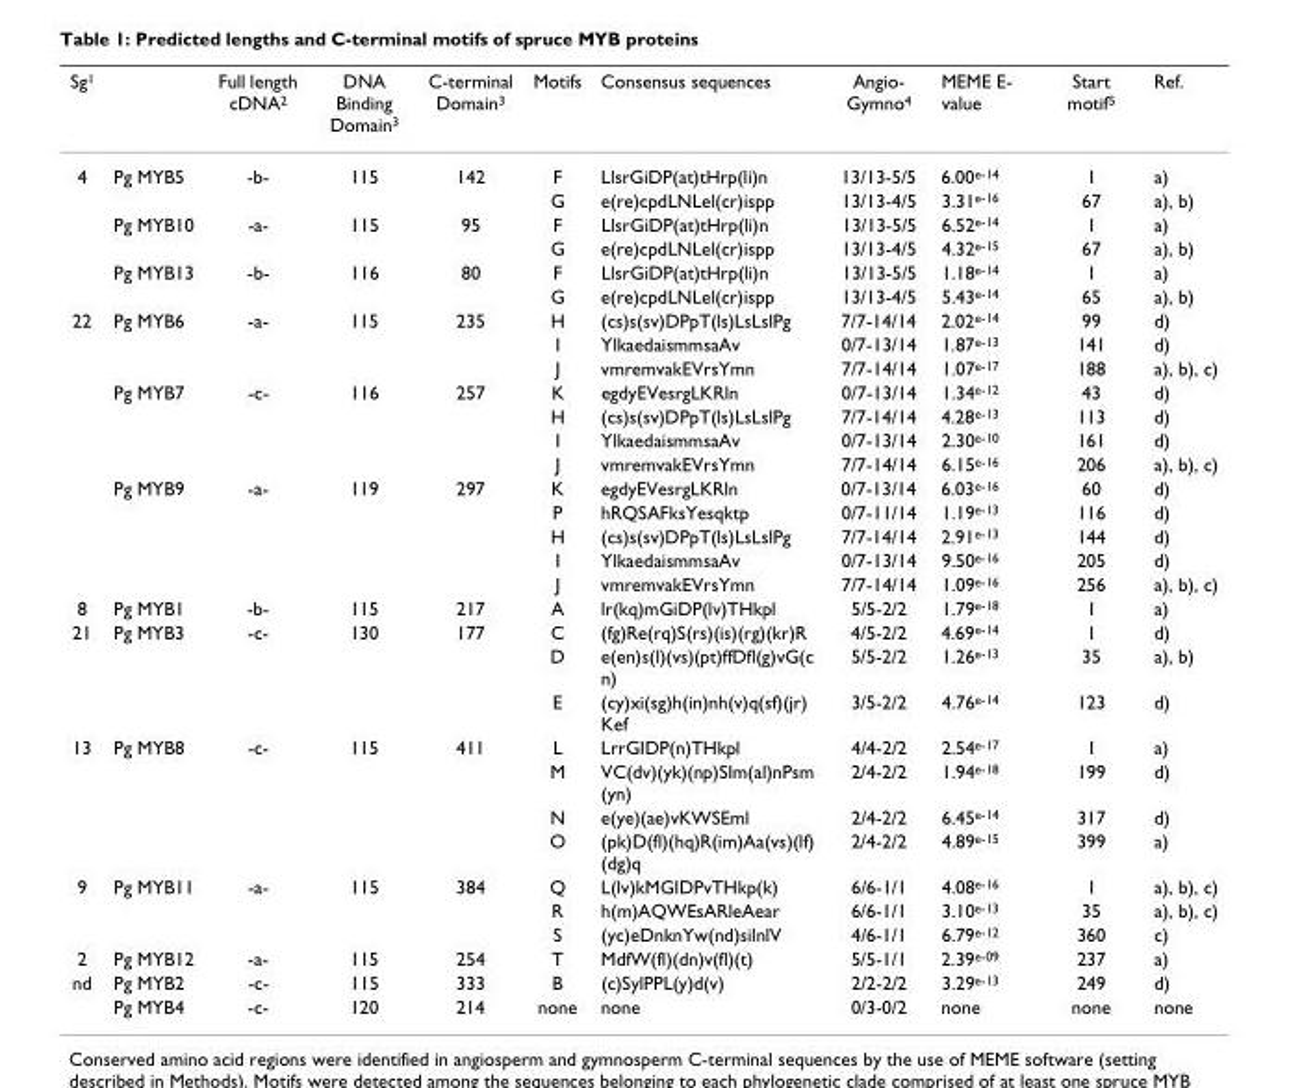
<table><thead><tr><td>Sg1</td><td></td><td>Full length cDNA2</td><td>DNA Binding Domain3</td><td>C-terminal Domain3</td><td>Motifs</td><td>Consensus sequences</td><td>Angio- Gymno4</td><td>MEME E- value</td><td>Start motif5</td><td>Ref.</td></tr></thead><tbody><tr><td rowspan="6">4</td><td>Pg MYB5</td><td>-b-</td><td>115</td><td>142</td><td>F</td><td>LlsrGiDP(at)tHrp(li)n</td><td>13/13-5/5</td><td>6.00e-14</td><td>1</td><td>a)</td></tr><tr><td></td><td></td><td></td><td></td><td>G</td><td>e(re)cpdLNLel(cr)ispp</td><td>13/13-4/5</td><td>3.31e-16</td><td>67</td><td>a), b)</td></tr><tr><td>Pg MYB10</td><td>-a-</td><td>115</td><td>95</td><td>F</td><td>LlsrGiDP(at)tHrp(li)n</td><td>13/13-5/5</td><td>6.52e-14</td><td>1</td><td>a)</td></tr><tr><td></td><td></td><td></td><td></td><td>G</td><td>e(re)cpdLNLel(cr)ispp</td><td>13/13-4/5</td><td>4.32e-15</td><td>67</td><td>a), b)</td></tr><tr><td>Pg MYB13</td><td>-b-</td><td>116</td><td>80</td><td>F</td><td>LlsrGiDP(at)tHrp(li)n</td><td>13/13-5/5</td><td>1.18e-14</td><td>1</td><td>a)</td></tr><tr><td></td><td></td><td></td><td></td><td>G</td><td>e(re)cpdLNLel(cr)ispp</td><td>13/13-4/5</td><td>5.43e-14</td><td>65</td><td>a), b)</td></tr><tr><td rowspan="12">22</td><td>Pg MYB6</td><td>-a-</td><td>115</td><td>235</td><td>H</td><td>(cs)s(sv)DPpT(ls)LsLslPg</td><td>7/7-14/14</td><td>2.02e-14</td><td>99</td><td>d)</td></tr><tr><td></td><td></td><td></td><td></td><td>I</td><td>YlkaedaismmsaAv</td><td>0/7-13/14</td><td>1.87e-13</td><td>141</td><td>d)</td></tr><tr><td></td><td></td><td></td><td></td><td>J</td><td>vmremvakEVrsYmn</td><td>7/7-14/14</td><td>1.07e-17</td><td>188</td><td>a), b), c)</td></tr><tr><td>Pg MYB7</td><td>-c-</td><td>116</td><td>257</td><td>K</td><td>egdyEVesrgLKRln</td><td>0/7-13/14</td><td>1.34e-12</td><td>43</td><td>d)</td></tr><tr><td></td><td></td><td></td><td></td><td>H</td><td>(cs)s(sv)DPpT(ls)LsLslPg</td><td>7/7-14/14</td><td>4.28e-13</td><td>113</td><td>d)</td></tr><tr><td></td><td></td><td></td><td></td><td>I</td><td>YlkaedaismmsaAv</td><td>0/7-13/14</td><td>2.30e-10</td><td>161</td><td>d)</td></tr><tr><td></td><td></td><td></td><td></td><td>J</td><td>vmremvakEVrsYmn</td><td>7/7-14/14</td><td>6.15e-16</td><td>206</td><td>a), b), c)</td></tr><tr><td>Pg MYB9</td><td>-a-</td><td>119</td><td>297</td><td>K</td><td>egdyEVesrgLKRln</td><td>0/7-13/14</td><td>6.03e-16</td><td>60</td><td>d)</td></tr><tr><td></td><td></td><td></td><td></td><td>P</td><td>hRQSAFksYesqktp</td><td>0/7-11/14</td><td>1.19e-13</td><td>116</td><td>d)</td></tr><tr><td></td><td></td><td></td><td></td><td>H</td><td>(cs)s(sv)DPpT(ls)LsLslPg</td><td>7/7-14/14</td><td>2.91e-13</td><td>144</td><td>d)</td></tr><tr><td></td><td></td><td></td><td></td><td>I</td><td>YlkaedaismmsaAv</td><td>0/7-13/14</td><td>9.50e-16</td><td>205</td><td>d)</td></tr><tr><td></td><td></td><td></td><td></td><td>J</td><td>vmremvakEVrsYmn</td><td>7/7-14/14</td><td>1.09e-16</td><td>256</td><td>a), b), c)</td></tr><tr><td>8</td><td>Pg MYB1</td><td>-b-</td><td>115</td><td>217</td><td>A</td><td>lr(kq)mGiDP(lv)THkpl</td><td>5/5-2/2</td><td>1.79e-18</td><td>1</td><td>a)</td></tr><tr><td rowspan="3">21</td><td>Pg MYB3</td><td>-c-</td><td>130</td><td>177</td><td>C</td><td>(fg)Re(rq)S(rs)(is)(rg)(kr)R</td><td>4/5-2/2</td><td>4.69e-14</td><td>1</td><td>d)</td></tr><tr><td></td><td></td><td></td><td></td><td>D</td><td>e(en)s(l)(vs)(pt)ffDfl(g)vG(c n)</td><td>5/5-2/2</td><td>1.26e-13</td><td>35</td><td>a), b)</td></tr><tr><td></td><td></td><td></td><td></td><td>E</td><td>(cy)xi(sg)h(in)nh(v)q(sf)(jr) Kef</td><td>3/5-2/2</td><td>4.76e-14</td><td>123</td><td>d)</td></tr><tr><td rowspan="4">13</td><td>Pg MYB8</td><td>-c-</td><td>115</td><td>411</td><td>L</td><td>LrrGIDP(n)THkpl</td><td>4/4-2/2</td><td>2.54e-17</td><td>1</td><td>a)</td></tr><tr><td></td><td></td><td></td><td></td><td>M</td><td>VC(dv)(yk)(np)SIm(al)nPsm (yn)</td><td>2/4-2/2</td><td>1.94e-18</td><td>199</td><td>d)</td></tr><tr><td></td><td></td><td></td><td></td><td>N</td><td>e(ye)(ae)vKWSEml</td><td>2/4-2/2</td><td>6.45e-14</td><td>317</td><td>d)</td></tr><tr><td></td><td></td><td></td><td></td><td>O</td><td>(pk)D(fl)(hq)R(im)Aa(vs)(lf) (dg)q</td><td>2/4-2/2</td><td>4.89e-15</td><td>399</td><td>a)</td></tr><tr><td rowspan="3">9</td><td>Pg MYB11</td><td>-a-</td><td>115</td><td>384</td><td>Q</td><td>L(lv)kMGIDPvTHkp(k)</td><td>6/6-1/1</td><td>4.08e-16</td><td>1</td><td>a), b), c)</td></tr><tr><td></td><td></td><td></td><td></td><td>R</td><td>h(m)AQWEsARleAear</td><td>6/6-1/1</td><td>3.10e-13</td><td>35</td><td>a), b), c)</td></tr><tr><td></td><td></td><td></td><td></td><td>S</td><td>(yc)eDnknYw(nd)silnlV</td><td>4/6-1/1</td><td>6.79e-12</td><td>360</td><td>c)</td></tr><tr><td>2</td><td>Pg MYB12</td><td>-a-</td><td>115</td><td>254</td><td>T</td><td>MdfW(fl)(dn)v(fl)(t)</td><td>5/5-1/1</td><td>2.39e-09</td><td>237</td><td>a)</td></tr><tr><td rowspan="2">nd</td><td>Pg MYB2</td><td>-c-</td><td>115</td><td>333</td><td>B</td><td>(c)SylPPL(y)d(v)</td><td>2/2-2/2</td><td>3.29e-13</td><td>249</td><td>d)</td></tr><tr><td>Pg MYB4</td><td>-c-</td><td>120</td><td>214</td><td>none</td><td>none</td><td>0/3-0/2</td><td>none</td><td>none</td><td>none</td></tr></tbody></table>